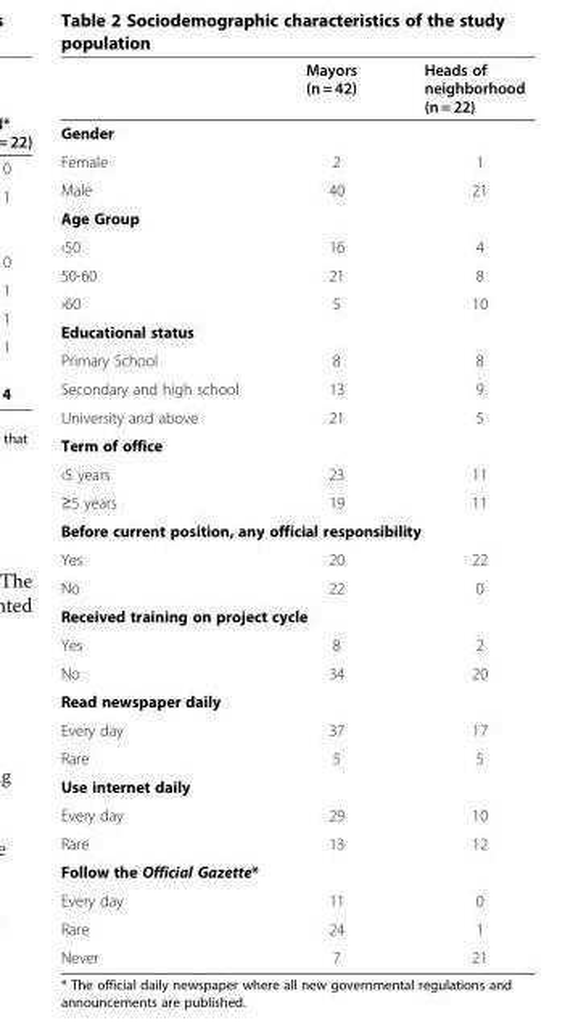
<table><thead><tr><td></td><td>Mayors (n = 42)</td><td>Heads of neighborhood (n = 22)</td></tr></thead><tbody><tr><td colspan="3">Gender</td></tr><tr><td>Female</td><td>2</td><td>1</td></tr><tr><td>Male</td><td>40</td><td>21</td></tr><tr><td colspan="3">Age Group</td></tr><tr><td>‹50</td><td>16</td><td>4</td></tr><tr><td>50-60</td><td>21</td><td>8</td></tr><tr><td>›60</td><td>5</td><td>10</td></tr><tr><td colspan="3">Educational status</td></tr><tr><td>Primary School</td><td>8</td><td>8</td></tr><tr><td>Secondary and high school</td><td>13</td><td>9</td></tr><tr><td>University and above</td><td>21</td><td>5</td></tr><tr><td colspan="3">Term of office</td></tr><tr><td>‹5 years</td><td>23</td><td>11</td></tr><tr><td>≥5 years</td><td>19</td><td>11</td></tr><tr><td colspan="3">Before current position, any official responsibility</td></tr><tr><td>Yes</td><td>20</td><td>22</td></tr><tr><td>No</td><td>22</td><td>0</td></tr><tr><td colspan="3">Received training on project cycle</td></tr><tr><td>Yes</td><td>8</td><td>2</td></tr><tr><td>No</td><td>34</td><td>20</td></tr><tr><td colspan="3">Read newspaper daily</td></tr><tr><td>Every day</td><td>37</td><td>17</td></tr><tr><td>Rare</td><td>5</td><td>5</td></tr><tr><td colspan="3">Use internet daily</td></tr><tr><td>Every day</td><td>29</td><td>10</td></tr><tr><td>Rare</td><td>13</td><td>12</td></tr><tr><td colspan="3">Follow the Official Gazette*</td></tr><tr><td>Every day</td><td>11</td><td>0</td></tr><tr><td>Rare</td><td>24</td><td>1</td></tr><tr><td>Never</td><td>7</td><td>21</td></tr></tbody></table>